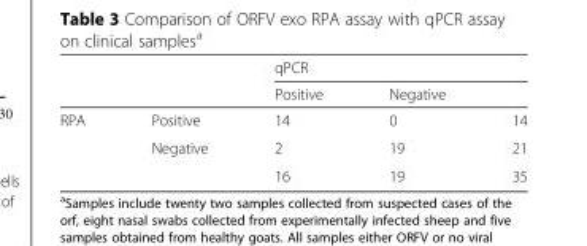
<table><thead><tr><td rowspan="2"></td><td rowspan="2"></td><td colspan="3">qPCR</td></tr><tr><td>Positive</td><td>Negative</td><td></td></tr></thead><tbody><tr><td rowspan="3">RPA</td><td>Positive</td><td>14</td><td>0</td><td>14</td></tr><tr><td>Negative</td><td>2</td><td>19</td><td>21</td></tr><tr><td></td><td>16</td><td>19</td><td>35</td></tr></tbody></table>